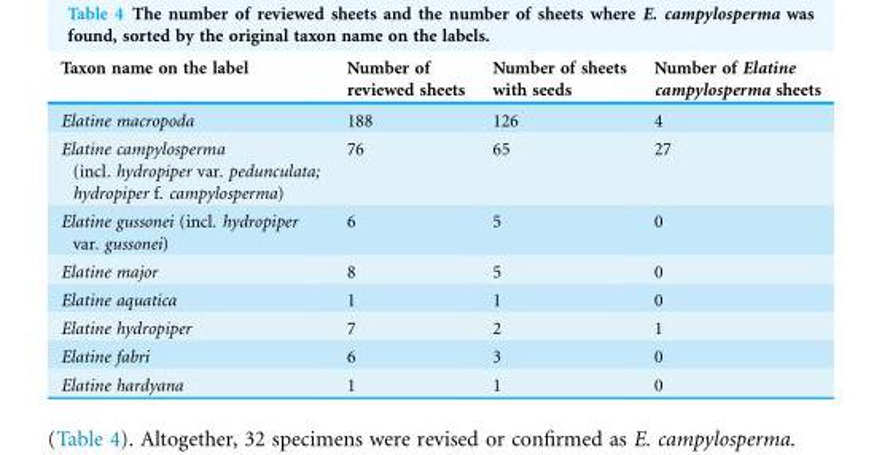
<table><thead><tr><td>Taxon name on the label</td><td>Number of reviewed sheets</td><td>Number of sheets with seeds</td><td>Number of Elatine campylosperma sheets</td></tr></thead><tbody><tr><td>Elatine macropoda</td><td>188</td><td>126</td><td>4</td></tr><tr><td>Elatine campylosperma (incl. hydropiper var. pedunculata; hydropiper f. campylosperma)</td><td>76</td><td>65</td><td>27</td></tr><tr><td>Elatine gussonei (incl. hydropiper var. gussonei)</td><td>6</td><td>5</td><td>0</td></tr><tr><td>Elatine major</td><td>8</td><td>5</td><td>0</td></tr><tr><td>Elatine aquatica</td><td>1</td><td>1</td><td>0</td></tr><tr><td>Elatine hydropiper</td><td>7</td><td>2</td><td>1</td></tr><tr><td>Elatine fabri</td><td>6</td><td>3</td><td>0</td></tr><tr><td>Elatine hardyana</td><td>1</td><td>1</td><td>0</td></tr></tbody></table>